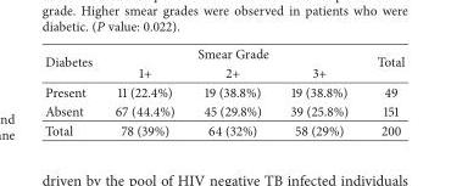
<table><thead><tr><td rowspan="2">Diabetes</td><td colspan="3">Smear Grade</td><td rowspan="2">Total</td></tr><tr><td>1+</td><td>2+</td><td>3+</td></tr></thead><tbody><tr><td>Present</td><td>11 (22.4%)</td><td>19 (38.8%)</td><td>19 (38.8%)</td><td>49</td></tr><tr><td>Absent</td><td>67 (44.4%)</td><td>45 (29.8%)</td><td>39 (25.8%)</td><td>151</td></tr><tr><td>Total</td><td>78 (39%)</td><td>64 (32%)</td><td>58 (29%)</td><td>200</td></tr></tbody></table>